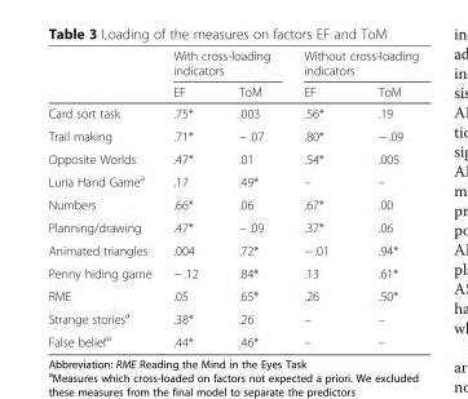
<table><thead><tr><td rowspan="2"></td><td colspan="2">With cross-loading indicators</td><td colspan="2">Without cross-loading indicators</td></tr><tr><td>EF</td><td>ToM</td><td>EF</td><td>ToM</td></tr></thead><tbody><tr><td>Card sort task</td><td>.75*</td><td>.003</td><td>.56*</td><td>.19</td></tr><tr><td>Trail making</td><td>.71*</td><td>− .07</td><td>.80*</td><td>− .09</td></tr><tr><td>Opposite Worlds</td><td>.47*</td><td>.01</td><td>.54*</td><td>.005</td></tr><tr><td>Luria Hand Game<sup>a</sup></td><td>.17</td><td>.49*</td><td>–</td><td>–</td></tr><tr><td>Numbers</td><td>.66*</td><td>.06</td><td>.67*</td><td>.00</td></tr><tr><td>Planning/drawing</td><td>.47*</td><td>− .09</td><td>.37*</td><td>.06</td></tr><tr><td>Animated triangles</td><td>.004</td><td>.72*</td><td>− .01</td><td>.94*</td></tr><tr><td>Penny hiding game</td><td>− .12</td><td>.84*</td><td>.13</td><td>.61*</td></tr><tr><td>RME</td><td>.05</td><td>.65*</td><td>.26</td><td>.50*</td></tr><tr><td>Strange stories<sup>a</sup></td><td>.38*</td><td>.26</td><td>–</td><td>–</td></tr><tr><td>False belief<sup>a</sup></td><td>.44*</td><td>.46*</td><td>–</td><td>–</td></tr></tbody></table>